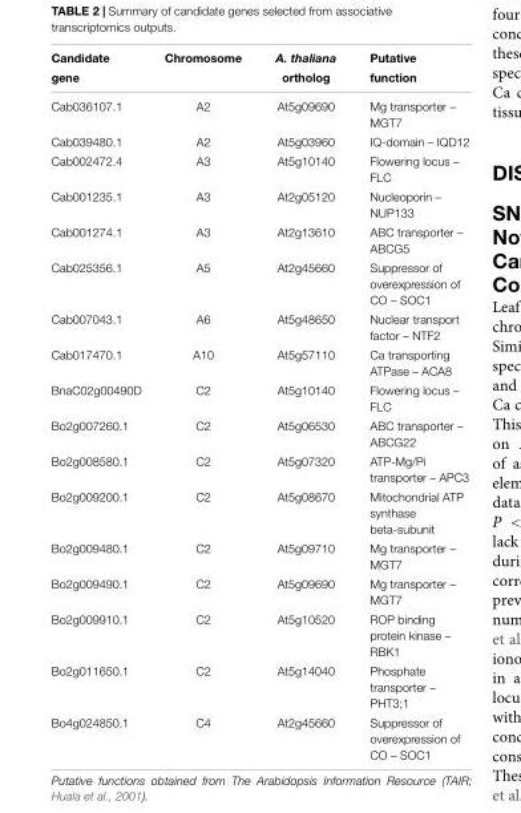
<table><thead><tr><td rowspan="2">Candidate gene</td><td rowspan="2">Chromosome</td><td rowspan="2">A. thaliana ortholog</td><td rowspan="2">Putative function</td></tr><tr></tr></thead><tbody><tr><td>Cab036107.1</td><td>A2</td><td>At5g09690</td><td>Mg transporter – MGT7</td></tr><tr><td>Cab039480.1</td><td>A2</td><td>At5g03960</td><td>IQ-domain – IQD12</td></tr><tr><td>Cab002472.4</td><td>A3</td><td>At5g10140</td><td>Flowering locus – FLC</td></tr><tr><td>Cab001235.1</td><td>A3</td><td>At2g05120</td><td>Nucleoporin – NUP133</td></tr><tr><td>Cab001274.1</td><td>A3</td><td>At2g13610</td><td>ABC transporter – ABCG5</td></tr><tr><td>Cab025356.1</td><td>A5</td><td>At2g45660</td><td>Suppressor of overexpression of CO – SOC1</td></tr><tr><td>Cab007043.1</td><td>A6</td><td>At5g48650</td><td>Nuclear transport factor – NTF2</td></tr><tr><td>Cab017470.1</td><td>A10</td><td>At5g57110</td><td>Ca transporting ATPase – ACA8</td></tr><tr><td>BnaC02g00490D</td><td>C2</td><td>At5g10140</td><td>Flowering locus – FLC</td></tr><tr><td>Bo2g007260.1</td><td>C2</td><td>At5g06530</td><td>ABC transporter – ABCG22</td></tr><tr><td>Bo2g008580.1</td><td>C2</td><td>At5g07320</td><td>ATP-Mg/Pi transporter – APC3</td></tr><tr><td>Bo2g009200.1</td><td>C2</td><td>At5g08670</td><td>Mitochondrial ATP synthase beta-subunit</td></tr><tr><td>Bo2g009480.1</td><td>C2</td><td>At5g09710</td><td>Mg transporter – MGT7</td></tr><tr><td>Bo2g009490.1</td><td>C2</td><td>At5g09690</td><td>Mg transporter – MGT7</td></tr><tr><td>Bo2g009910.1</td><td>C2</td><td>At5g10520</td><td>ROP binding protein kinase – RBK1</td></tr><tr><td>Bo2g011650.1</td><td>C2</td><td>At5g14040</td><td>Phosphate transporter – PHT3;1</td></tr><tr><td>Bo4g024850.1</td><td>C4</td><td>At2g45660</td><td>Suppressor of overexpression of CO – SOC1</td></tr></tbody></table>